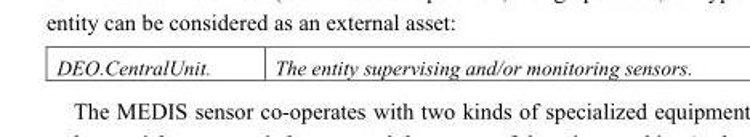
<table><tbody><tr><td>DEO.CentralUnit.</td><td>The entity supervising and/or monitoring sensors.</td></tr></tbody></table>